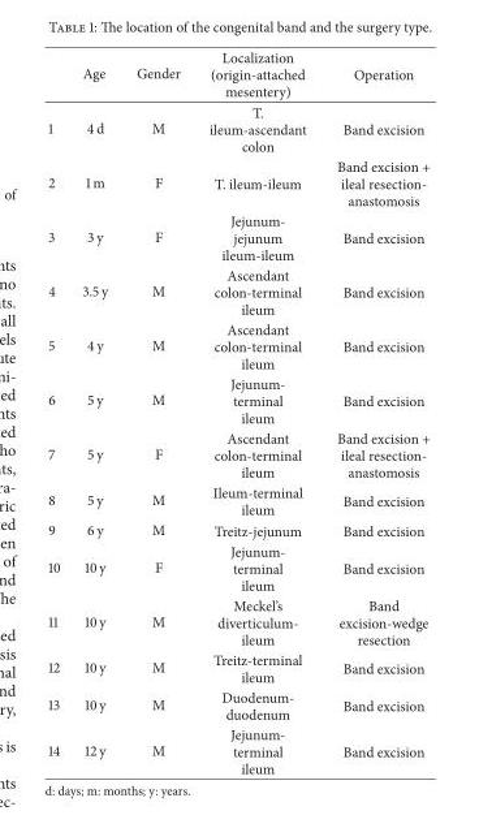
<table><thead><tr><td></td><td>Age</td><td>Gender</td><td>Localization (origin-attached mesentery)</td><td>Operation</td></tr></thead><tbody><tr><td>1</td><td>4 d</td><td>M</td><td>T. ileum-ascendant colon</td><td>Band excision</td></tr><tr><td>2</td><td>1 m</td><td>F</td><td>T. ileum-ileum</td><td>Band excision + ileal resection- anastomosis</td></tr><tr><td>3</td><td>3 y</td><td>F</td><td>Jejunum- jejunum ileum-ileum</td><td>Band excision</td></tr><tr><td>4</td><td>3.5 y</td><td>M</td><td>Ascendant colon-terminal ileum</td><td>Band excision</td></tr><tr><td>5</td><td>4 y</td><td>M</td><td>Ascendant colon-terminal ileum</td><td>Band excision</td></tr><tr><td>6</td><td>5 y</td><td>M</td><td>Jejunum- terminal ileum</td><td>Band excision</td></tr><tr><td>7</td><td>5 y</td><td>F</td><td>Ascendant colon-terminal ileum</td><td>Band excision + ileal resection- anastomosis</td></tr><tr><td>8</td><td>5 y</td><td>M</td><td>Ileum-terminal ileum</td><td>Band excision</td></tr><tr><td>9</td><td>6 y</td><td>M</td><td>Treitz-jejunum</td><td>Band excision</td></tr><tr><td>10</td><td>10 y</td><td>F</td><td>Jejunum- terminal ileum</td><td>Band excision</td></tr><tr><td>11</td><td>10 y</td><td>M</td><td>Meckel’s diverticulum- ileum</td><td>Band excision-wedge resection</td></tr><tr><td>12</td><td>10 y</td><td>M</td><td>Treitz-terminal ileum</td><td>Band excision</td></tr><tr><td>13</td><td>10 y</td><td>M</td><td>Duodenum- duodenum</td><td>Band excision</td></tr><tr><td>14</td><td>12 y</td><td>M</td><td>Jejunum- terminal ileum</td><td>Band excision</td></tr></tbody></table>